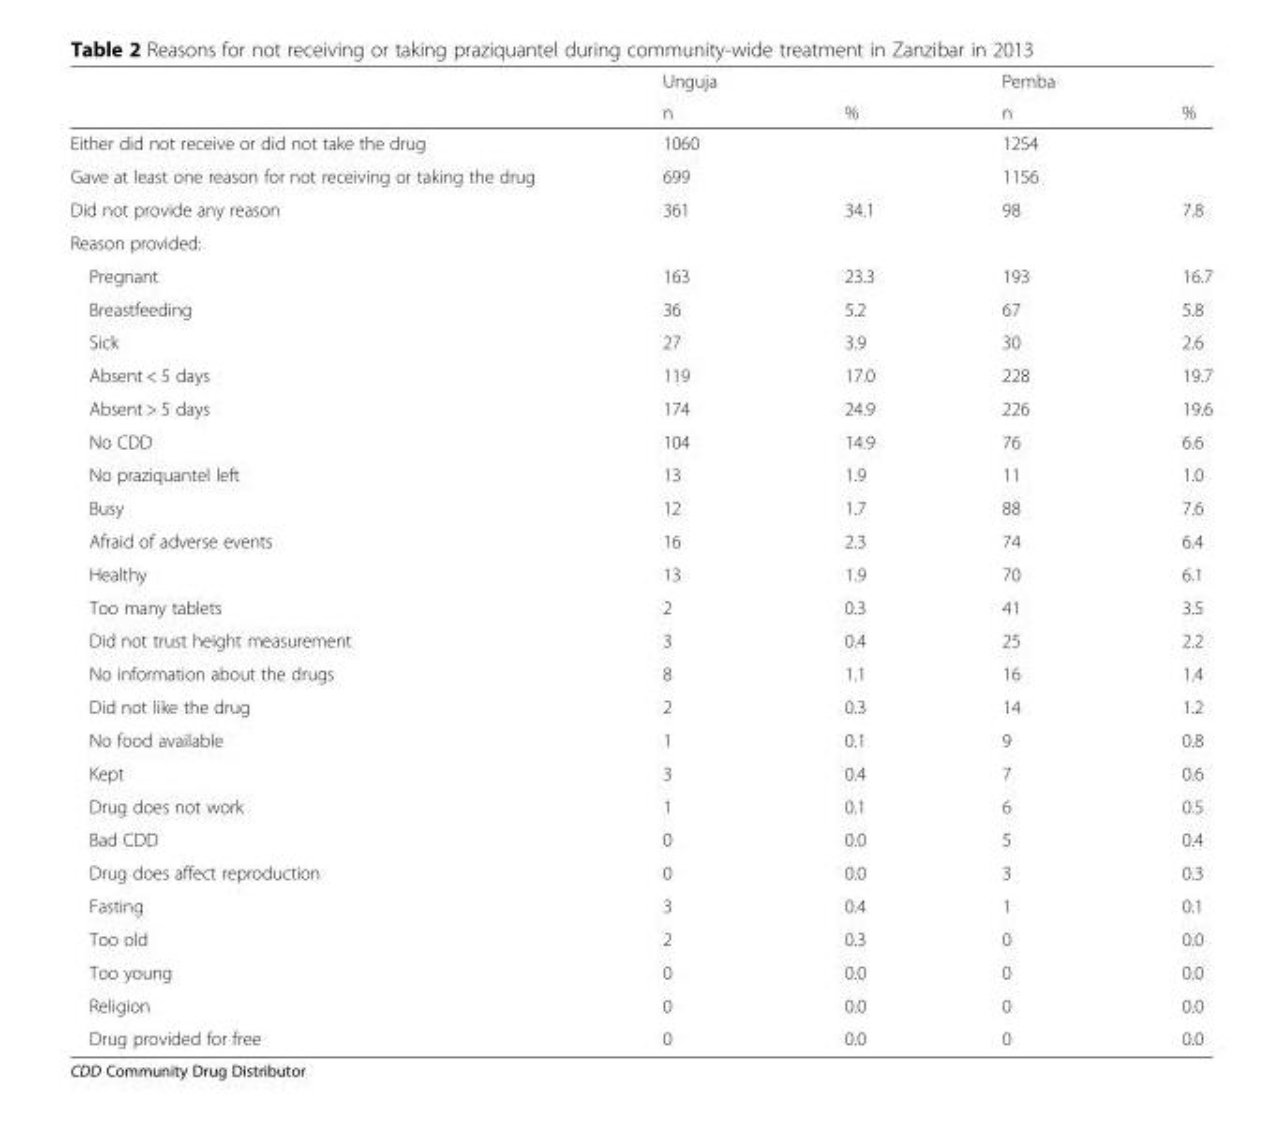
<table><thead><tr><td rowspan="2"></td><td rowspan="2">Unguja n</td><td rowspan="2">%</td><td rowspan="2">Pemba n</td><td rowspan="2">%</td></tr><tr></tr></thead><tbody><tr><td>Either did not receive or did not take the drug</td><td>1060</td><td></td><td>1254</td><td></td></tr><tr><td>Gave at least one reason for not receiving or taking the drug</td><td>699</td><td></td><td>1156</td><td></td></tr><tr><td>Did not provide any reason</td><td>361</td><td>34.1</td><td>98</td><td>7.8</td></tr><tr><td colspan="5">Reason provided:</td></tr><tr><td>Pregnant</td><td>163</td><td>23.3</td><td>193</td><td>16.7</td></tr><tr><td>Breastfeeding</td><td>36</td><td>5.2</td><td>67</td><td>5.8</td></tr><tr><td>Sick</td><td>27</td><td>3.9</td><td>30</td><td>2.6</td></tr><tr><td>Absent &lt; 5 days</td><td>119</td><td>17.0</td><td>228</td><td>19.7</td></tr><tr><td>Absent &gt; 5 days</td><td>174</td><td>24.9</td><td>226</td><td>19.6</td></tr><tr><td>No CDD</td><td>104</td><td>14.9</td><td>76</td><td>6.6</td></tr><tr><td>No praziquantel left</td><td>13</td><td>1.9</td><td>11</td><td>1.0</td></tr><tr><td>Busy</td><td>12</td><td>1.7</td><td>88</td><td>7.6</td></tr><tr><td>Afraid of adverse events</td><td>16</td><td>2.3</td><td>74</td><td>6.4</td></tr><tr><td>Healthy</td><td>13</td><td>1.9</td><td>70</td><td>6.1</td></tr><tr><td>Too many tablets</td><td>2</td><td>0.3</td><td>41</td><td>3.5</td></tr><tr><td>Did not trust height measurement</td><td>3</td><td>0.4</td><td>25</td><td>2.2</td></tr><tr><td>No information about the drugs</td><td>8</td><td>1.1</td><td>16</td><td>1.4</td></tr><tr><td>Did not like the drug</td><td>2</td><td>0.3</td><td>14</td><td>1.2</td></tr><tr><td>No food available</td><td>1</td><td>0.1</td><td>9</td><td>0.8</td></tr><tr><td>Kept</td><td>3</td><td>0.4</td><td>7</td><td>0.6</td></tr><tr><td>Drug does not work</td><td>1</td><td>0.1</td><td>6</td><td>0.5</td></tr><tr><td>Bad CDD</td><td>0</td><td>0.0</td><td>5</td><td>0.4</td></tr><tr><td>Drug does affect reproduction</td><td>0</td><td>0.0</td><td>3</td><td>0.3</td></tr><tr><td>Fasting</td><td>3</td><td>0.4</td><td>1</td><td>0.1</td></tr><tr><td>Too old</td><td>2</td><td>0.3</td><td>0</td><td>0.0</td></tr><tr><td>Too young</td><td>0</td><td>0.0</td><td>0</td><td>0.0</td></tr><tr><td>Religion</td><td>0</td><td>0.0</td><td>0</td><td>0.0</td></tr><tr><td>Drug provided for free</td><td>0</td><td>0.0</td><td>0</td><td>0.0</td></tr></tbody></table>